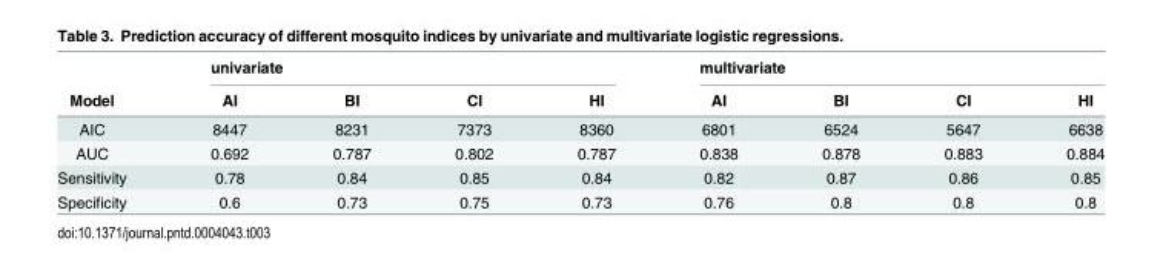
<table><thead><tr><td rowspan="2">Model</td><td colspan="4">univariate</td><td colspan="4">multivariate</td></tr><tr><td>AI</td><td>BI</td><td>CI</td><td>HI</td><td>AI</td><td>BI</td><td>CI</td><td>HI</td></tr></thead><tbody><tr><td>AIC</td><td>8447</td><td>8231</td><td>7373</td><td>8360</td><td>6801</td><td>6524</td><td>5647</td><td>6638</td></tr><tr><td>AUC</td><td>0.692</td><td>0.787</td><td>0.802</td><td>0.787</td><td>0.838</td><td>0.878</td><td>0.883</td><td>0.884</td></tr><tr><td>Sensitivity</td><td>0.78</td><td>0.84</td><td>0.85</td><td>0.84</td><td>0.82</td><td>0.87</td><td>0.86</td><td>0.85</td></tr><tr><td>Specificity</td><td>0.6</td><td>0.73</td><td>0.75</td><td>0.73</td><td>0.76</td><td>0.8</td><td>0.8</td><td>0.8</td></tr></tbody></table>